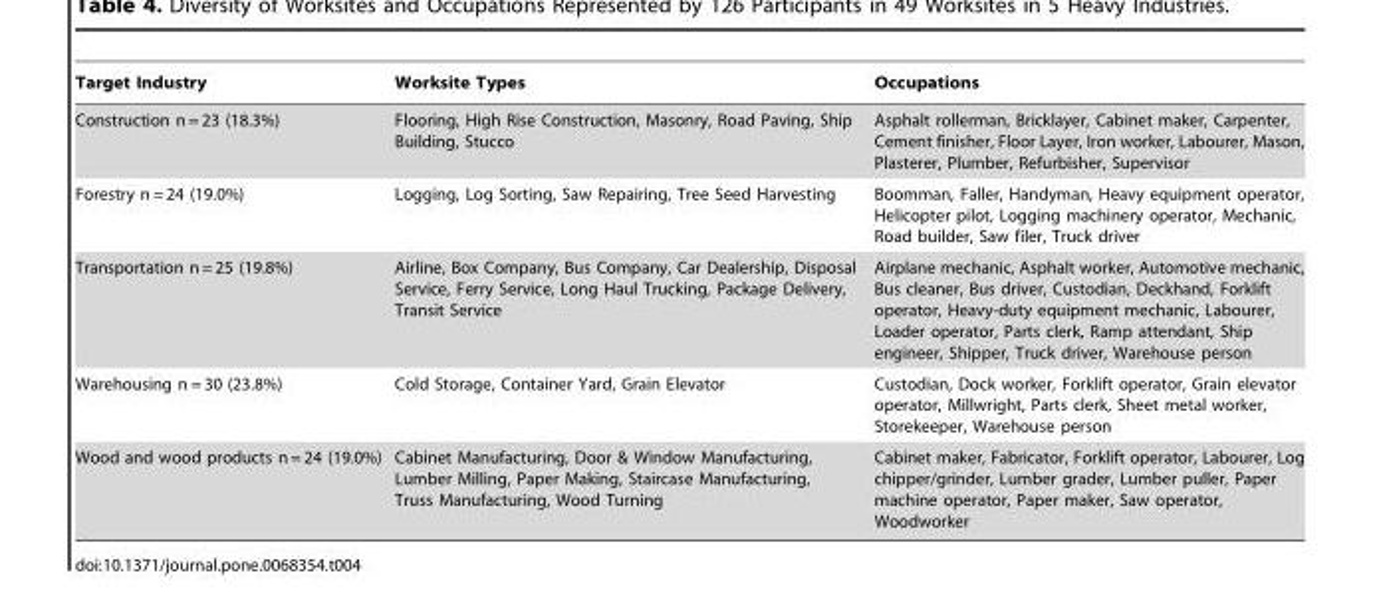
<table><thead><tr><td>Target Industry</td><td>Worksite Types</td><td>Occupations</td></tr></thead><tbody><tr><td>Construction n = 23 (18.3%)</td><td>Flooring, High Rise Construction, Masonry, Road Paving, Ship Building, Stucco</td><td>Asphalt rollerman, Bricklayer, Cabinet maker, Carpenter, Cement finisher, Floor Layer, Iron worker, Labourer, Mason, Plasterer, Plumber, Refurbisher, Supervisor</td></tr><tr><td>Forestry n = 24 (19.0%)</td><td>Logging, Log Sorting, Saw Repairing, Tree Seed Harvesting</td><td>Boomman, Faller, Handyman, Heavy equipment operator, Helicopter pilot, Logging machinery operator, Mechanic, Road builder, Saw filer, Truck driver</td></tr><tr><td>Transportation n = 25 (19.8%)</td><td>Airline, Box Company, Bus Company, Car Dealership, Disposal Service, Ferry Service, Long Haul Trucking, Package Delivery, Transit Service</td><td>Airplane mechanic, Asphalt worker, Automotive mechanic, Bus cleaner, Bus driver, Custodian, Deckhand, Forklift operator, Heavy-duty equipment mechanic, Labourer, Loader operator, Parts clerk, Ramp attendant, Ship engineer, Shipper, Truck driver, Warehouse person</td></tr><tr><td>Warehousing n = 30 (23.8%)</td><td>Cold Storage, Container Yard, Grain Elevator</td><td>Custodian, Dock worker, Forklift operator, Grain elevator operator, Millwright, Parts clerk, Sheet metal worker, Storekeeper, Warehouse person</td></tr><tr><td>Wood and wood products n = 24 (19.0%)</td><td>Cabinet Manufacturing, Door &amp; Window Manufacturing, Lumber Milling, Paper Making, Staircase Manufacturing, Truss Manufacturing, Wood Turning</td><td>Cabinet maker, Fabricator, Forklift operator, Labourer, Log chipper/grinder, Lumber grader, Lumber puller, Paper machine operator, Paper maker, Saw operator, Woodworker</td></tr></tbody></table>